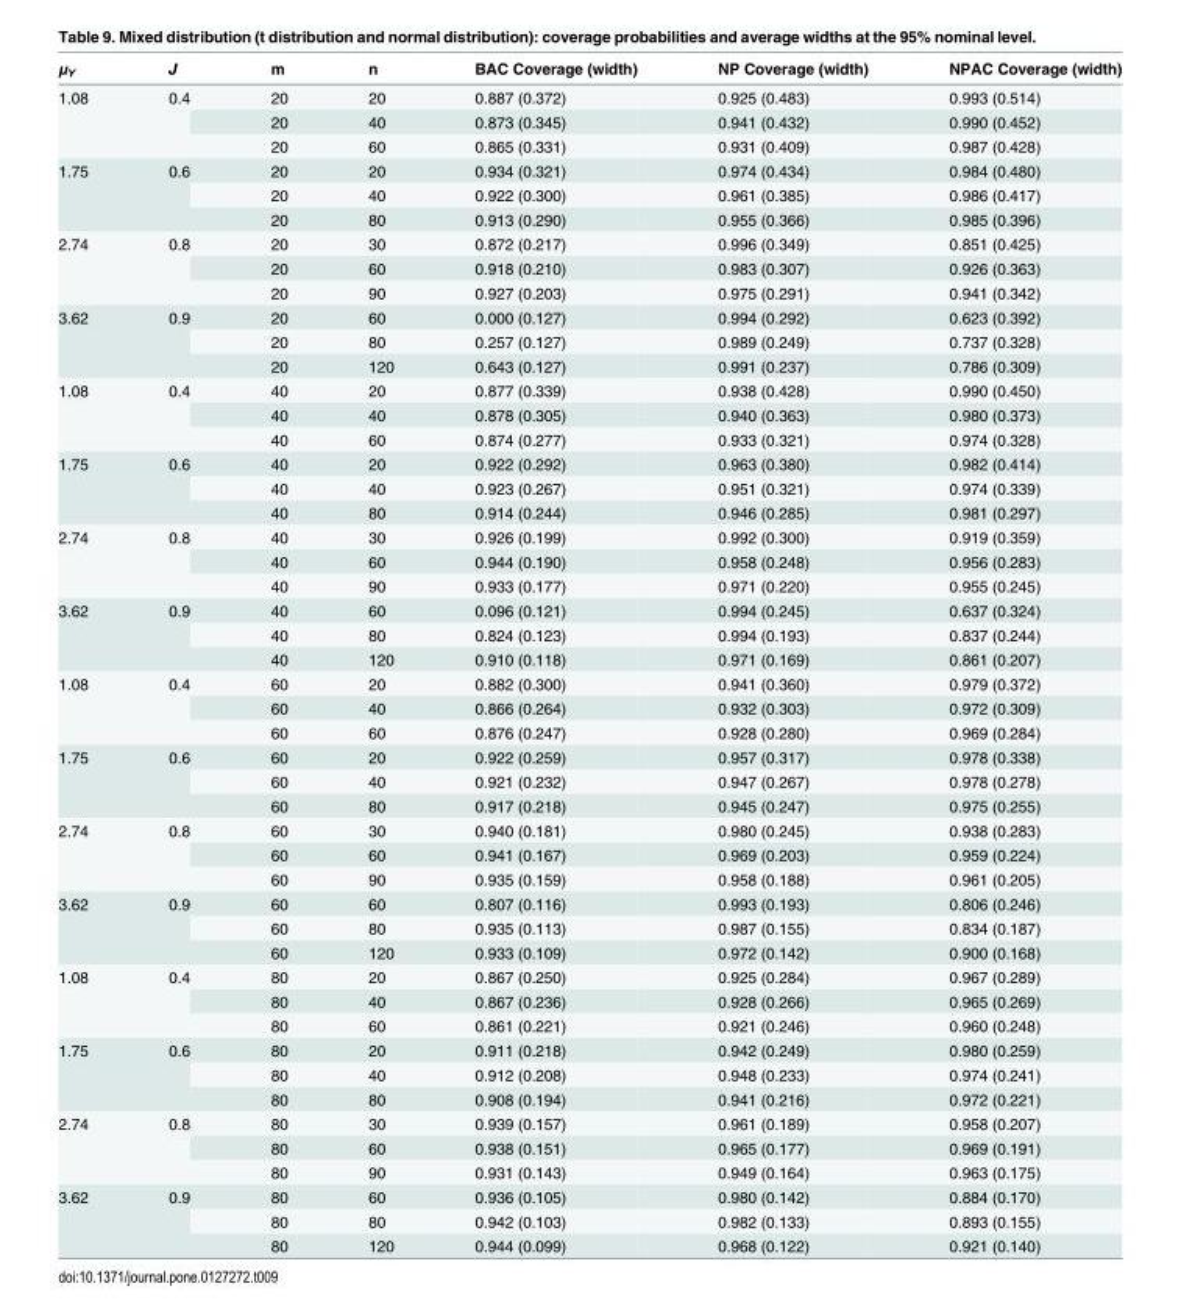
<table><thead><tr><td>μ<sub>Y</sub></td><td>J</td><td>m</td><td>n</td><td>BAC Coverage (width)</td><td>NP Coverage (width)</td><td>NPAC Coverage (width)</td></tr></thead><tbody><tr><td rowspan="3">1.08</td><td rowspan="3">0.4</td><td>20</td><td>20</td><td>0.887 (0.372)</td><td>0.925 (0.483)</td><td>0.993 (0.514)</td></tr><tr><td>20</td><td>40</td><td>0.873 (0.345)</td><td>0.941 (0.432)</td><td>0.990 (0.452)</td></tr><tr><td>20</td><td>60</td><td>0.865 (0.331)</td><td>0.931 (0.409)</td><td>0.987 (0.428)</td></tr><tr><td rowspan="3">1.75</td><td rowspan="3">0.6</td><td>20</td><td>20</td><td>0.934 (0.321)</td><td>0.974 (0.434)</td><td>0.984 (0.480)</td></tr><tr><td>20</td><td>40</td><td>0.922 (0.300)</td><td>0.961 (0.385)</td><td>0.986 (0.417)</td></tr><tr><td>20</td><td>80</td><td>0.913 (0.290)</td><td>0.955 (0.366)</td><td>0.985 (0.396)</td></tr><tr><td rowspan="3">2.74</td><td rowspan="3">0.8</td><td>20</td><td>30</td><td>0.872 (0.217)</td><td>0.996 (0.349)</td><td>0.851 (0.425)</td></tr><tr><td>20</td><td>60</td><td>0.918 (0.210)</td><td>0.983 (0.307)</td><td>0.926 (0.363)</td></tr><tr><td>20</td><td>90</td><td>0.927 (0.203)</td><td>0.975 (0.291)</td><td>0.941 (0.342)</td></tr><tr><td rowspan="3">3.62</td><td rowspan="3">0.9</td><td>20</td><td>60</td><td>0.000 (0.127)</td><td>0.994 (0.292)</td><td>0.623 (0.392)</td></tr><tr><td>20</td><td>80</td><td>0.257 (0.127)</td><td>0.989 (0.249)</td><td>0.737 (0.328)</td></tr><tr><td>20</td><td>120</td><td>0.643 (0.127)</td><td>0.991 (0.237)</td><td>0.786 (0.309)</td></tr><tr><td rowspan="3">1.08</td><td rowspan="3">0.4</td><td>40</td><td>20</td><td>0.877 (0.339)</td><td>0.938 (0.428)</td><td>0.990 (0.450)</td></tr><tr><td>40</td><td>40</td><td>0.878 (0.305)</td><td>0.940 (0.363)</td><td>0.980 (0.373)</td></tr><tr><td>40</td><td>60</td><td>0.874 (0.277)</td><td>0.933 (0.321)</td><td>0.974 (0.328)</td></tr><tr><td rowspan="3">1.75</td><td rowspan="3">0.6</td><td>40</td><td>20</td><td>0.922 (0.292)</td><td>0.963 (0.380)</td><td>0.982 (0.414)</td></tr><tr><td>40</td><td>40</td><td>0.923 (0.267)</td><td>0.951 (0.321)</td><td>0.974 (0.339)</td></tr><tr><td>40</td><td>80</td><td>0.914 (0.244)</td><td>0.946 (0.285)</td><td>0.981 (0.297)</td></tr><tr><td rowspan="3">2.74</td><td rowspan="3">0.8</td><td>40</td><td>30</td><td>0.926 (0.199)</td><td>0.992 (0.300)</td><td>0.919 (0.359)</td></tr><tr><td>40</td><td>60</td><td>0.944 (0.190)</td><td>0.958 (0.248)</td><td>0.956 (0.283)</td></tr><tr><td>40</td><td>90</td><td>0.933 (0.177)</td><td>0.971 (0.220)</td><td>0.955 (0.245)</td></tr><tr><td rowspan="3">3.62</td><td rowspan="3">0.9</td><td>40</td><td>60</td><td>0.096 (0.121)</td><td>0.994 (0.245)</td><td>0.637 (0.324)</td></tr><tr><td>40</td><td>80</td><td>0.824 (0.123)</td><td>0.994 (0.193)</td><td>0.837 (0.244)</td></tr><tr><td>40</td><td>120</td><td>0.910 (0.118)</td><td>0.971 (0.169)</td><td>0.861 (0.207)</td></tr><tr><td rowspan="3">1.08</td><td rowspan="3">0.4</td><td>60</td><td>20</td><td>0.882 (0.300)</td><td>0.941 (0.360)</td><td>0.979 (0.372)</td></tr><tr><td>60</td><td>40</td><td>0.866 (0.264)</td><td>0.932 (0.303)</td><td>0.972 (0.309)</td></tr><tr><td>60</td><td>60</td><td>0.876 (0.247)</td><td>0.928 (0.280)</td><td>0.969 (0.284)</td></tr><tr><td rowspan="3">1.75</td><td rowspan="3">0.6</td><td>60</td><td>20</td><td>0.922 (0.259)</td><td>0.957 (0.317)</td><td>0.978 (0.338)</td></tr><tr><td>60</td><td>40</td><td>0.921 (0.232)</td><td>0.947 (0.267)</td><td>0.978 (0.278)</td></tr><tr><td>60</td><td>80</td><td>0.917 (0.218)</td><td>0.945 (0.247)</td><td>0.975 (0.255)</td></tr><tr><td rowspan="3">2.74</td><td rowspan="3">0.8</td><td>60</td><td>30</td><td>0.940 (0.181)</td><td>0.980 (0.245)</td><td>0.938 (0.283)</td></tr><tr><td>60</td><td>60</td><td>0.941 (0.167)</td><td>0.969 (0.203)</td><td>0.959 (0.224)</td></tr><tr><td>60</td><td>90</td><td>0.935 (0.159)</td><td>0.958 (0.188)</td><td>0.961 (0.205)</td></tr><tr><td rowspan="3">3.62</td><td rowspan="3">0.9</td><td>60</td><td>60</td><td>0.807 (0.116)</td><td>0.993 (0.193)</td><td>0.806 (0.246)</td></tr><tr><td>60</td><td>80</td><td>0.935 (0.113)</td><td>0.987 (0.155)</td><td>0.834 (0.187)</td></tr><tr><td>60</td><td>120</td><td>0.933 (0.109)</td><td>0.972 (0.142)</td><td>0.900 (0.168)</td></tr><tr><td rowspan="3">1.08</td><td rowspan="3">0.4</td><td>80</td><td>20</td><td>0.867 (0.250)</td><td>0.925 (0.284)</td><td>0.967 (0.289)</td></tr><tr><td>80</td><td>40</td><td>0.867 (0.236)</td><td>0.928 (0.266)</td><td>0.965 (0.269)</td></tr><tr><td>80</td><td>60</td><td>0.861 (0.221)</td><td>0.921 (0.246)</td><td>0.960 (0.248)</td></tr><tr><td rowspan="3">1.75</td><td rowspan="3">0.6</td><td>80</td><td>20</td><td>0.911 (0.218)</td><td>0.942 (0.249)</td><td>0.980 (0.259)</td></tr><tr><td>80</td><td>40</td><td>0.912 (0.208)</td><td>0.948 (0.233)</td><td>0.974 (0.241)</td></tr><tr><td>80</td><td>80</td><td>0.908 (0.194)</td><td>0.941 (0.216)</td><td>0.972 (0.221)</td></tr><tr><td rowspan="3">2.74</td><td rowspan="3">0.8</td><td>80</td><td>30</td><td>0.939 (0.157)</td><td>0.961 (0.189)</td><td>0.958 (0.207)</td></tr><tr><td>80</td><td>60</td><td>0.938 (0.151)</td><td>0.965 (0.177)</td><td>0.969 (0.191)</td></tr><tr><td>80</td><td>90</td><td>0.931 (0.143)</td><td>0.949 (0.164)</td><td>0.963 (0.175)</td></tr><tr><td rowspan="3">3.62</td><td rowspan="3">0.9</td><td>80</td><td>60</td><td>0.936 (0.105)</td><td>0.980 (0.142)</td><td>0.884 (0.170)</td></tr><tr><td>80</td><td>80</td><td>0.942 (0.103)</td><td>0.982 (0.133)</td><td>0.893 (0.155)</td></tr><tr><td>80</td><td>120</td><td>0.944 (0.099)</td><td>0.968 (0.122)</td><td>0.921 (0.140)</td></tr></tbody></table>